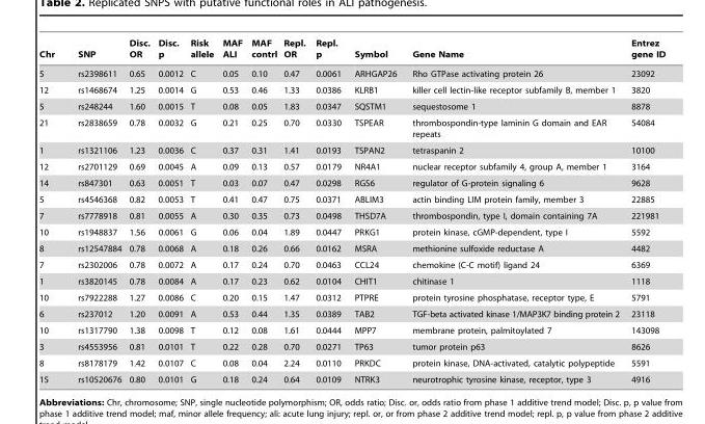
<table><thead><tr><td>Chr</td><td>SNP</td><td>Disc. OR</td><td>Disc. p</td><td>Risk allele</td><td>MAF ALI</td><td>MAF contrl</td><td>Repl. OR</td><td>Repl. p</td><td>Symbol</td><td>Gene Name</td><td>Entrez gene ID</td></tr></thead><tbody><tr><td>5</td><td>rs2398611</td><td>0.65</td><td>0.0012</td><td>C</td><td>0.05</td><td>0.10</td><td>0.47</td><td>0.0061</td><td>ARHGAP26</td><td>Rho GTPase activating protein 26</td><td>23092</td></tr><tr><td>12</td><td>rs1468674</td><td>1.25</td><td>0.0014</td><td>G</td><td>0.53</td><td>0.46</td><td>1.33</td><td>0.0386</td><td>KLRB1</td><td>killer cell lectin-like receptor subfamily B, member 1</td><td>3820</td></tr><tr><td>5</td><td>rs248244</td><td>1.60</td><td>0.0015</td><td>T</td><td>0.08</td><td>0.05</td><td>1.83</td><td>0.0347</td><td>SQSTM1</td><td>sequestosome 1</td><td>8878</td></tr><tr><td>21</td><td>rs2838659</td><td>0.78</td><td>0.0032</td><td>G</td><td>0.21</td><td>0.25</td><td>0.70</td><td>0.0330</td><td>TSPEAR</td><td>thrombospondin-type laminin G domain and EAR repeats</td><td>54084</td></tr><tr><td>1</td><td>rs1321106</td><td>1.23</td><td>0.0036</td><td>C</td><td>0.37</td><td>0.31</td><td>1.41</td><td>0.0193</td><td>TSPAN2</td><td>tetraspanin 2</td><td>10100</td></tr><tr><td>12</td><td>rs2701129</td><td>0.69</td><td>0.0045</td><td>A</td><td>0.09</td><td>0.13</td><td>0.57</td><td>0.0179</td><td>NR4A1</td><td>nuclear receptor subfamily 4, group A, member 1</td><td>3164</td></tr><tr><td>14</td><td>rs847301</td><td>0.63</td><td>0.0051</td><td>T</td><td>0.03</td><td>0.07</td><td>0.47</td><td>0.0298</td><td>RGS6</td><td>regulator of G-protein signaling 6</td><td>9628</td></tr><tr><td>5</td><td>rs4546368</td><td>0.82</td><td>0.0053</td><td>T</td><td>0.41</td><td>0.47</td><td>0.75</td><td>0.0371</td><td>ABLIM3</td><td>actin binding LIM protein family, member 3</td><td>22885</td></tr><tr><td>7</td><td>rs7778918</td><td>0.81</td><td>0.0055</td><td>A</td><td>0.30</td><td>0.35</td><td>0.73</td><td>0.0498</td><td>THSD7A</td><td>thrombospondin, type I, domain containing 7A</td><td>221981</td></tr><tr><td>10</td><td>rs1948837</td><td>1.56</td><td>0.0061</td><td>G</td><td>0.06</td><td>0.04</td><td>1.89</td><td>0.0447</td><td>PRKG1</td><td>protein kinase, cGMP-dependent, type I</td><td>5592</td></tr><tr><td>8</td><td>rs12547884</td><td>0.78</td><td>0.0068</td><td>A</td><td>0.18</td><td>0.26</td><td>0.66</td><td>0.0162</td><td>MSRA</td><td>methionine sulfoxide reductase A</td><td>4482</td></tr><tr><td>7</td><td>rs2302006</td><td>0.78</td><td>0.0072</td><td>A</td><td>0.17</td><td>0.24</td><td>0.70</td><td>0.0463</td><td>CCL24</td><td>chemokine (C-C motif) ligand 24</td><td>6369</td></tr><tr><td>1</td><td>rs3820145</td><td>0.78</td><td>0.0084</td><td>A</td><td>0.17</td><td>0.23</td><td>0.62</td><td>0.0104</td><td>CHIT1</td><td>chitinase 1</td><td>1118</td></tr><tr><td>10</td><td>rs7922288</td><td>1.27</td><td>0.0086</td><td>C</td><td>0.20</td><td>0.15</td><td>1.47</td><td>0.0312</td><td>PTPRE</td><td>protein tyrosine phosphatase, receptor type, E</td><td>5791</td></tr><tr><td>6</td><td>rs237012</td><td>1.20</td><td>0.0091</td><td>A</td><td>0.53</td><td>0.44</td><td>1.35</td><td>0.0389</td><td>TAB2</td><td>TGF-beta activated kinase 1/MAP3K7 binding protein 2</td><td>23118</td></tr><tr><td>10</td><td>rs1317790</td><td>1.38</td><td>0.0098</td><td>T</td><td>0.12</td><td>0.08</td><td>1.61</td><td>0.0444</td><td>MPP7</td><td>membrane protein, palmitoylated 7</td><td>143098</td></tr><tr><td>3</td><td>rs4553956</td><td>0.81</td><td>0.0101</td><td>T</td><td>0.22</td><td>0.28</td><td>0.70</td><td>0.0271</td><td>TP63</td><td>tumor protein p63</td><td>8626</td></tr><tr><td>8</td><td>rs8178179</td><td>1.42</td><td>0.0107</td><td>C</td><td>0.08</td><td>0.04</td><td>2.24</td><td>0.0110</td><td>PRKDC</td><td>protein kinase, DNA-activated, catalytic polypeptide</td><td>5591</td></tr><tr><td>15</td><td>rs10520676</td><td>0.80</td><td>0.0101</td><td>G</td><td>0.18</td><td>0.24</td><td>0.64</td><td>0.0109</td><td>NTRK3</td><td>neurotrophic tyrosine kinase, receptor, type 3</td><td>4916</td></tr></tbody></table>